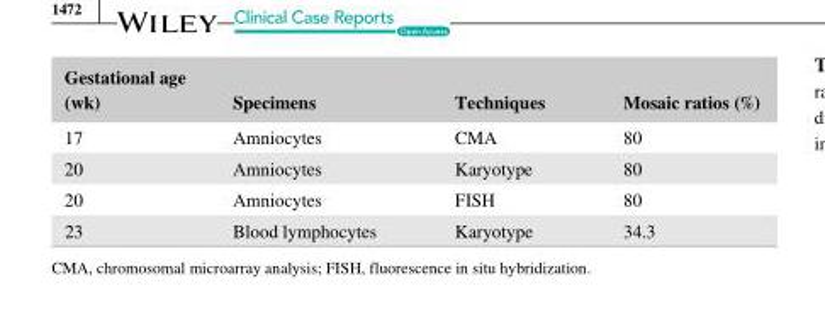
<table><thead><tr><td>Gestational age (wk)</td><td>Specimens</td><td>Techniques</td><td>Mosaic ratios (%)</td></tr></thead><tbody><tr><td>17</td><td>Amniocytes</td><td>CMA</td><td>80</td></tr><tr><td>20</td><td>Amniocytes</td><td>Karyotype</td><td>80</td></tr><tr><td>20</td><td>Amniocytes</td><td>FISH</td><td>80</td></tr><tr><td>23</td><td>Blood lymphocytes</td><td>Karyotype</td><td>34.3</td></tr></tbody></table>